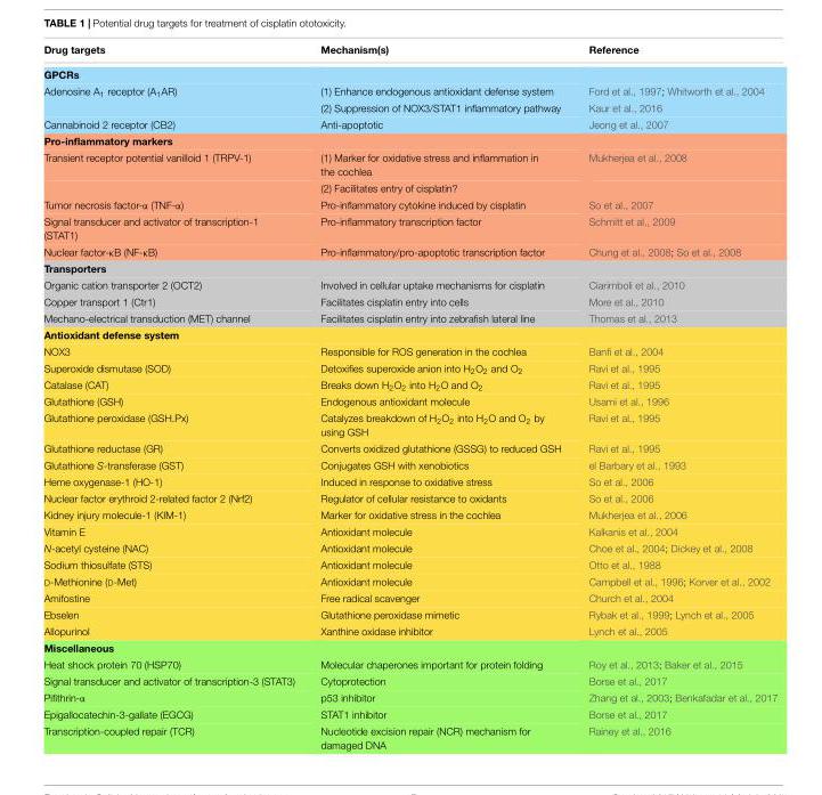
<table><thead><tr><td>Drug targets</td><td>Mechanism(s)</td><td>Reference</td></tr></thead><tbody><tr><td colspan="3">GPCRs</td></tr><tr><td rowspan="2">Adenosine A<sub>1</sub> receptor (A<sub>1</sub>AR)</td><td>(1) Enhance endogenous antioxidant defense system</td><td>Ford et al., 1997; Whitworth et al., 2004</td></tr><tr><td>(2) Suppression of NOX3/STAT1 inflammatory pathway</td><td>Kaur et al., 2016</td></tr><tr><td>Cannabinoid 2 receptor (CB2)</td><td>Anti-apoptotic</td><td>Jeong et al., 2007</td></tr><tr><td colspan="3">Pro-inflammatory markers</td></tr><tr><td rowspan="2">Transient receptor potential vanilloid 1 (TRPV-1)</td><td>(1) Marker for oxidative stress and inflammation in the cochlea</td><td>Mukherjea et al., 2008</td></tr><tr><td>(2) Facilitates entry of cisplatin?</td><td></td></tr><tr><td>Tumor necrosis factor-α (TNF-α)</td><td>Pro-inflammatory cytokine induced by cisplatin</td><td>So et al., 2007</td></tr><tr><td>Signal transducer and activator of transcription-1 (STAT1)</td><td>Pro-inflammatory transcription factor</td><td>Schmitt et al., 2009</td></tr><tr><td>Nuclear factor-κB (NF-κB)</td><td>Pro-inflammatory/pro-apoptotic transcription factor</td><td>Chung et al., 2008; So et al., 2008</td></tr><tr><td colspan="3">Transporters</td></tr><tr><td>Organic cation transporter 2 (OCT2)</td><td>Involved in cellular uptake mechanisms for cisplatin</td><td>Ciarimboli et al., 2010</td></tr><tr><td>Copper transport 1 (Ctr1)</td><td>Facilitates cisplatin entry into cells</td><td>More et al., 2010</td></tr><tr><td>Mechano-electrical transduction (MET) channel</td><td>Facilitates cisplatin entry into zebrafish lateral line</td><td>Thomas et al., 2013</td></tr><tr><td colspan="3">Antioxidant defense system</td></tr><tr><td>NOX3</td><td>Responsible for ROS generation in the cochlea</td><td>Banfi et al., 2004</td></tr><tr><td>Superoxide dismutase (SOD)</td><td>Detoxifies superoxide anion into H<sub>2</sub>O<sub>2</sub> and O<sub>2</sub></td><td>Ravi et al., 1995</td></tr><tr><td>Catalase (CAT)</td><td>Breaks down H<sub>2</sub>O<sub>2</sub> into H<sub>2</sub>O and O<sub>2</sub></td><td>Ravi et al., 1995</td></tr><tr><td>Glutathione (GSH)</td><td>Endogenous antioxidant molecule</td><td>Usami et al., 1996</td></tr><tr><td>Glutathione peroxidase (GSH.Px)</td><td>Catalyzes breakdown of H<sub>2</sub>O<sub>2</sub> into H<sub>2</sub>O and O<sub>2</sub> by using GSH</td><td>Ravi et al., 1995</td></tr><tr><td>Glutathione reductase (GR)</td><td>Converts oxidized glutathione (GSSG) to reduced GSH</td><td>Ravi et al., 1995</td></tr><tr><td>Glutathione S-transferase (GST)</td><td>Conjugates GSH with xenobiotics</td><td>el Barbary et al., 1993</td></tr><tr><td>Heme oxygenase-1 (HO-1)</td><td>Induced in response to oxidative stress</td><td>So et al., 2006</td></tr><tr><td>Nuclear factor erythroid 2-related factor 2 (Nrf2)</td><td>Regulator of cellular resistance to oxidants</td><td>So et al., 2006</td></tr><tr><td>Kidney injury molecule-1 (KIM-1)</td><td>Marker for oxidative stress in the cochlea</td><td>Mukherjea et al., 2006</td></tr><tr><td>Vitamin E</td><td>Antioxidant molecule</td><td>Kalkanis et al., 2004</td></tr><tr><td>N-acetyl cysteine (NAC)</td><td>Antioxidant molecule</td><td>Choe et al., 2004; Dickey et al., 2008</td></tr><tr><td>Sodium thiosulfate (STS)</td><td>Antioxidant molecule</td><td>Otto et al., 1988</td></tr><tr><td>D-Methionine (D-Met)</td><td>Antioxidant molecule</td><td>Campbell et al., 1996; Korver et al., 2002</td></tr><tr><td>Amifostine</td><td>Free radical scavenger</td><td>Church et al., 2004</td></tr><tr><td>Ebselen</td><td>Glutathione peroxidase mimetic</td><td>Rybak et al., 1999; Lynch et al., 2005</td></tr><tr><td>Allopurinol</td><td>Xanthine oxidase inhibitor</td><td>Lynch et al., 2005</td></tr><tr><td colspan="3">Miscellaneous</td></tr><tr><td>Heat shock protein 70 (HSP70)</td><td>Molecular chaperones important for protein folding</td><td>Roy et al., 2013; Baker et al., 2015</td></tr><tr><td>Signal transducer and activator of transcription-3 (STAT3)</td><td>Cytoprotection</td><td>Borse et al., 2017</td></tr><tr><td>Pifithrin-α</td><td>p53 inhibitor</td><td>Zhang et al., 2003; Benkafadar et al., 2017</td></tr><tr><td>Epigallocatechin-3-gallate (EGCG)</td><td>STAT1 inhibitor</td><td>Borse et al., 2017</td></tr><tr><td>Transcription-coupled repair (TCR)</td><td>Nucleotide excision repair (NCR) mechanism for damaged DNA</td><td>Rainey et al., 2016</td></tr></tbody></table>